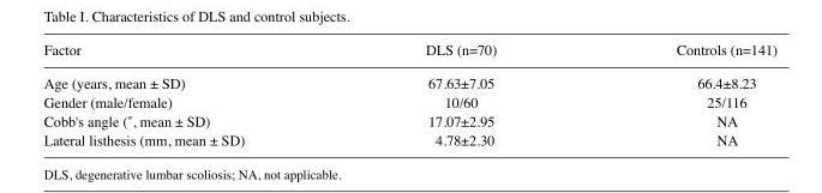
<table><thead><tr><td>Factor</td><td>DLS (n=70)</td><td>Controls (n=141)</td></tr></thead><tbody><tr><td>Age (years, mean ± SD)</td><td>67.63±7.05</td><td>66.4±8.23</td></tr><tr><td>Gender (male/female)</td><td>10/60</td><td>25/116</td></tr><tr><td>Cobb&#x27;s angle (˚, mean ± SD)</td><td>17.07±2.95</td><td>NA</td></tr><tr><td>Lateral listhesis (mm, mean ± SD)</td><td>4.78±2.30</td><td>NA</td></tr></tbody></table>